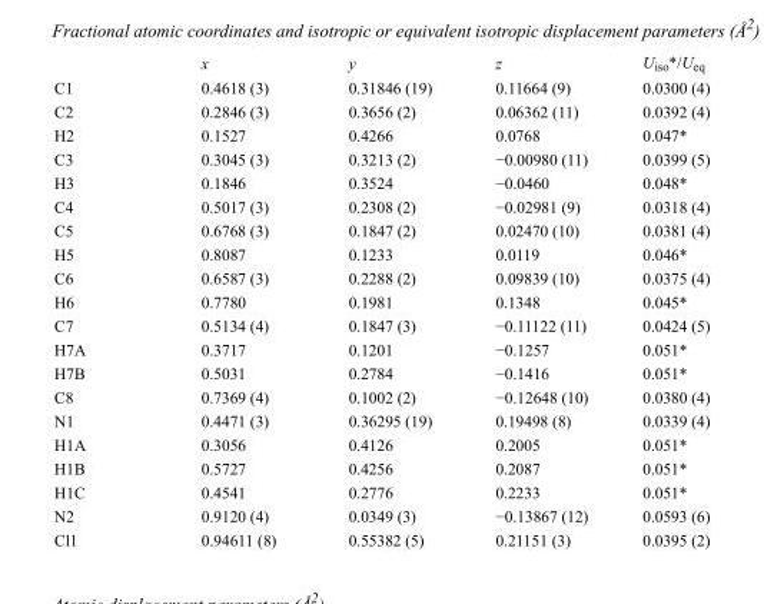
<table><thead><tr><td></td><td>x</td><td>y</td><td>z</td><td>U<sub>iso</sub>*/U<sub>eq</sub></td></tr></thead><tbody><tr><td>C1</td><td>0.4618 (3)</td><td>0.31846 (19)</td><td>0.11664 (9)</td><td>0.0300 (4)</td></tr><tr><td>C2</td><td>0.2846 (3)</td><td>0.3656 (2)</td><td>0.06362 (11)</td><td>0.0392 (4)</td></tr><tr><td>H2</td><td>0.1527</td><td>0.4266</td><td>0.0768</td><td>0.047*</td></tr><tr><td>C3</td><td>0.3045 (3)</td><td>0.3213 (2)</td><td>−0.00980 (11)</td><td>0.0399 (5)</td></tr><tr><td>H3</td><td>0.1846</td><td>0.3524</td><td>−0.0460</td><td>0.048*</td></tr><tr><td>C4</td><td>0.5017 (3)</td><td>0.2308 (2)</td><td>−0.02981 (9)</td><td>0.0318 (4)</td></tr><tr><td>C5</td><td>0.6768 (3)</td><td>0.1847 (2)</td><td>0.02470 (10)</td><td>0.0381 (4)</td></tr><tr><td>H5</td><td>0.8087</td><td>0.1233</td><td>0.0119</td><td>0.046*</td></tr><tr><td>C6</td><td>0.6587 (3)</td><td>0.2288 (2)</td><td>0.09839 (10)</td><td>0.0375 (4)</td></tr><tr><td>H6</td><td>0.7780</td><td>0.1981</td><td>0.1348</td><td>0.045*</td></tr><tr><td>C7</td><td>0.5134 (4)</td><td>0.1847 (3)</td><td>−0.11122 (11)</td><td>0.0424 (5)</td></tr><tr><td>H7A</td><td>0.3717</td><td>0.1201</td><td>−0.1257</td><td>0.051*</td></tr><tr><td>H7B</td><td>0.5031</td><td>0.2784</td><td>−0.1416</td><td>0.051*</td></tr><tr><td>C8</td><td>0.7369 (4)</td><td>0.1002 (2)</td><td>−0.12648 (10)</td><td>0.0380 (4)</td></tr><tr><td>N1</td><td>0.4471 (3)</td><td>0.36295 (19)</td><td>0.19498 (8)</td><td>0.0339 (4)</td></tr><tr><td>H1A</td><td>0.3056</td><td>0.4126</td><td>0.2005</td><td>0.051*</td></tr><tr><td>H1B</td><td>0.5727</td><td>0.4256</td><td>0.2087</td><td>0.051*</td></tr><tr><td>H1C</td><td>0.4541</td><td>0.2776</td><td>0.2233</td><td>0.051*</td></tr><tr><td>N2</td><td>0.9120 (4)</td><td>0.0349 (3)</td><td>−0.13867 (12)</td><td>0.0593 (6)</td></tr><tr><td>Cl1</td><td>0.94611 (8)</td><td>0.55382 (5)</td><td>0.21151 (3)</td><td>0.0395 (2)</td></tr></tbody></table>